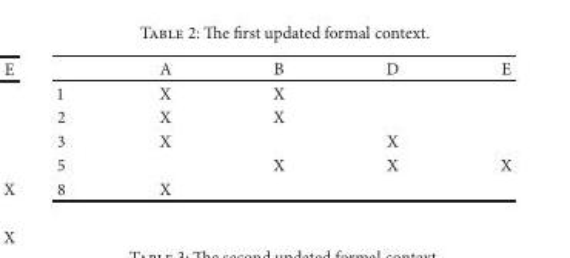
<table><thead><tr><td></td><td>A</td><td>B</td><td>D</td><td>E</td></tr></thead><tbody><tr><td>1</td><td>X</td><td>X</td><td></td><td></td></tr><tr><td>2</td><td>X</td><td>X</td><td></td><td></td></tr><tr><td>3</td><td>X</td><td></td><td>X</td><td></td></tr><tr><td>5</td><td></td><td>X</td><td>X</td><td>X</td></tr><tr><td>8</td><td>X</td><td></td><td></td><td></td></tr></tbody></table>